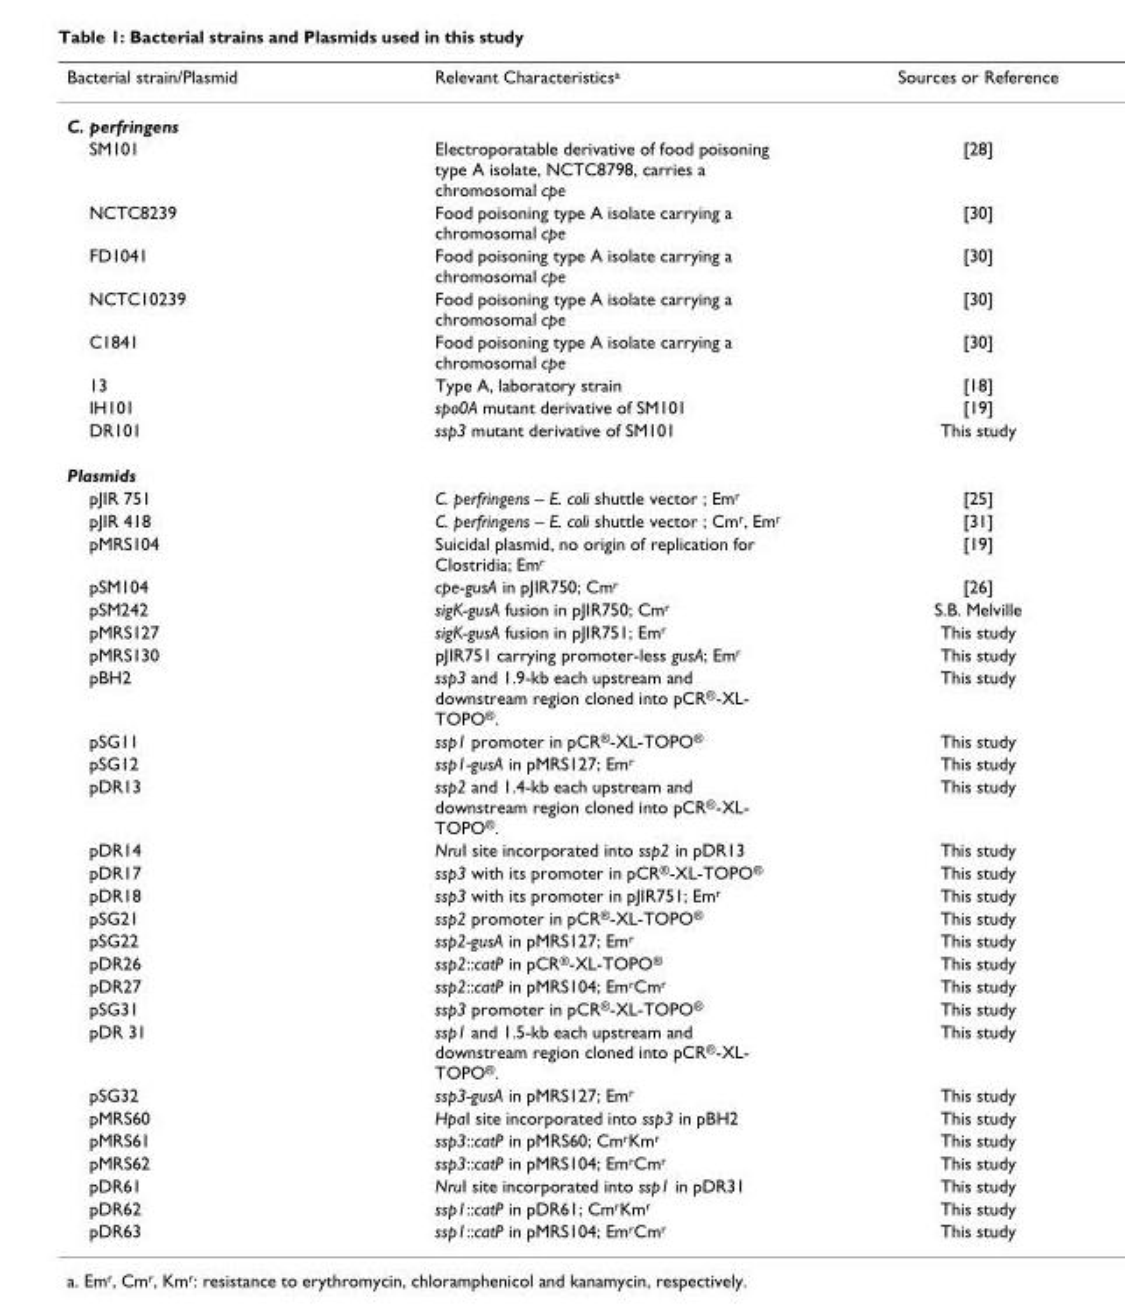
<table><thead><tr><td>Bacterial strain/Plasmid</td><td>Relevant Characteristicsa</td><td>Sources or Reference</td></tr></thead><tbody><tr><td colspan="3">C. perfringens</td></tr><tr><td>SM101</td><td>Electroporatable derivative of food poisoning type A isolate, NCTC8798, carries a chromosomal cpe</td><td>[28]</td></tr><tr><td>NCTC8239</td><td>Food poisoning type A isolate carrying a chromosomal cpe</td><td>[30]</td></tr><tr><td>FD1041</td><td>Food poisoning type A isolate carrying a chromosomal cpe</td><td>[30]</td></tr><tr><td>NCTC10239</td><td>Food poisoning type A isolate carrying a chromosomal cpe</td><td>[30]</td></tr><tr><td>C1841</td><td>Food poisoning type A isolate carrying a chromosomal cpe</td><td>[30]</td></tr><tr><td>13</td><td>Type A, laboratory strain</td><td>[18]</td></tr><tr><td>IH101</td><td>spo0A mutant derivative of SM101</td><td>[19]</td></tr><tr><td>DR101</td><td>ssp3 mutant derivative of SM101</td><td>This study</td></tr><tr><td colspan="3">Plasmids</td></tr><tr><td>pJIR 751</td><td>C. perfringens – E. coli shuttle vector ; Emr</td><td>[25]</td></tr><tr><td>pJIR 418</td><td>C. perfringens – E. coli shuttle vector ; Cmr, Emr</td><td>[31]</td></tr><tr><td>pMRS104</td><td>Suicidal plasmid, no origin of replication for Clostridia; Emr</td><td>[19]</td></tr><tr><td>pSM104</td><td>cpe-gusA in pJIR750; Cmr</td><td>[26]</td></tr><tr><td>pSM242</td><td>sigK-gusA fusion in pJIR750; Cmr</td><td>S.B. Melville</td></tr><tr><td>pMRS127</td><td>sigK-gusA fusion in pJIR751; Emr</td><td>This study</td></tr><tr><td>pMRS130</td><td>pJIR751 carrying promoter-less gusA; Emr</td><td>This study</td></tr><tr><td>pBH2</td><td>ssp3 and 1.9-kb each upstream and downstream region cloned into pCR®-XL- TOPO®.</td><td>This study</td></tr><tr><td>pSG11</td><td>ssp1 promoter in pCR®-XL-TOPO®</td><td>This study</td></tr><tr><td>pSG12</td><td>ssp1-gusA in pMRS127; Emr</td><td>This study</td></tr><tr><td>pDR13</td><td>ssp2 and 1.4-kb each upstream and downstream region cloned into pCR®-XL- TOPO®.</td><td>This study</td></tr><tr><td>pDR14</td><td>NruI site incorporated into ssp2 in pDR13</td><td>This study</td></tr><tr><td>pDR17</td><td>ssp3 with its promoter in pCR®-XL-TOPO®</td><td>This study</td></tr><tr><td>pDR18</td><td>ssp3 with its promoter in pJIR751; Emr</td><td>This study</td></tr><tr><td>pSG21</td><td>ssp2 promoter in pCR®-XL-TOPO®</td><td>This study</td></tr><tr><td>pSG22</td><td>ssp2-gusA in pMRS127; Emr</td><td>This study</td></tr><tr><td>pDR26</td><td>ssp2::catP in pCR®-XL-TOPO®</td><td>This study</td></tr><tr><td>pDR27</td><td>ssp2::catP in pMRS104; EmrCmr</td><td>This study</td></tr><tr><td>pSG31</td><td>ssp3 promoter in pCR®-XL-TOPO®</td><td>This study</td></tr><tr><td>pDR 31</td><td>ssp1 and 1.5-kb each upstream and downstream region cloned into pCR®-XL- TOPO®.</td><td>This study</td></tr><tr><td>pSG32</td><td>ssp3-gusA in pMRS127; Emr</td><td>This study</td></tr><tr><td>pMRS60</td><td>HpaI site incorporated into ssp3 in pBH2</td><td>This study</td></tr><tr><td>pMRS61</td><td>ssp3::catP in pMRS60; CmrKmr</td><td>This study</td></tr><tr><td>pMRS62</td><td>ssp3::catP in pMRS104; EmrCmr</td><td>This study</td></tr><tr><td>pDR61</td><td>NruI site incorporated into ssp1 in pDR31</td><td>This study</td></tr><tr><td>pDR62</td><td>ssp1::catP in pDR61; CmrKmr</td><td>This study</td></tr><tr><td>pDR63</td><td>ssp1::catP in pMRS104; EmrCmr</td><td>This study</td></tr></tbody></table>